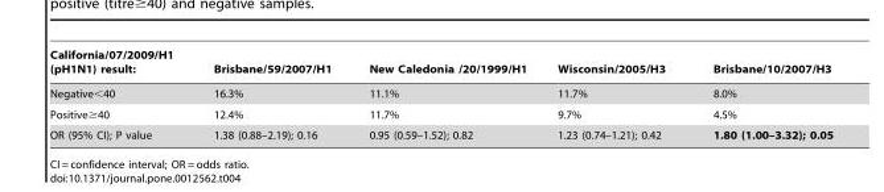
<table><thead><tr><td>California/07/2009/H1 (pH1N1) result:</td><td>Brisbane/59/2007/H1</td><td>New Caledonia /20/1999/H1</td><td>Wisconsin/2005/H3</td><td>Brisbane/10/2007/H3</td></tr></thead><tbody><tr><td>Negative&lt;40</td><td>16.3%</td><td>11.1%</td><td>11.7%</td><td>8.0%</td></tr><tr><td>Positive≥40</td><td>12.4%</td><td>11.7%</td><td>9.7%</td><td>4.5%</td></tr><tr><td>OR (95% CI); P value</td><td>1.38 (0.88–2.19); 0.16</td><td>0.95 (0.59–1.52); 0.82</td><td>1.23 (0.74–1.21); 0.42</td><td>1.80 (1.00–3.32); 0.05</td></tr></tbody></table>